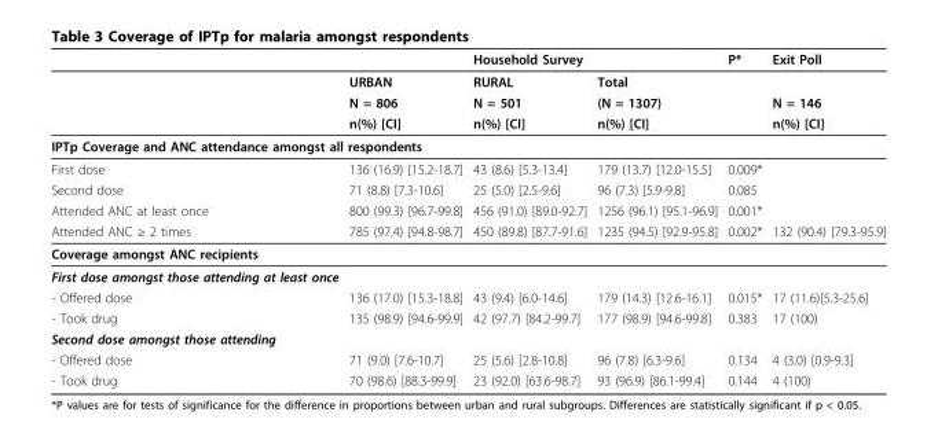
<table><thead><tr><td></td><td></td><td>Household Survey</td><td></td><td>P*</td><td>Exit Poll</td></tr></thead><tbody><tr><td></td><td>URBAN</td><td>RURAL</td><td>Total</td><td></td><td></td></tr><tr><td></td><td>N = 806</td><td>N = 501</td><td>(N = 1307)</td><td></td><td>N = 146</td></tr><tr><td></td><td>n(%) [CI]</td><td>n(%) [CI]</td><td>n(%) [CI]</td><td></td><td>n(%) [CI]</td></tr><tr><td colspan="6">IPTp Coverage and ANC attendance amongst all respondents</td></tr><tr><td>First dose</td><td>136 (16.9) [15.2-18.7]</td><td>43 (8.6) [5.3-13.4]</td><td>179 (13.7) [12.0-15.5]</td><td>0.009*</td><td></td></tr><tr><td>Second dose</td><td>71 (8.8) [7.3-10.6]</td><td>25 (5.0) [2.5-9.6]</td><td>96 (7.3) [5.9-9.8]</td><td>0.085</td><td></td></tr><tr><td>Attended ANC at least once</td><td>800 (99.3) [96.7-99.8]</td><td>456 (91.0) [89.0-92.7]</td><td>1256 (96.1) [95.1-96.9]</td><td>0.001*</td><td></td></tr><tr><td>Attended ANC ≥ 2 times</td><td>785 (97.4) [94.8-98.7]</td><td>450 (89.8) [87.7-91.6]</td><td>1235 (94.5) [92.9-95.8]</td><td>0.002*</td><td>132 (90.4) [79.3-95.9]</td></tr><tr><td colspan="6">Coverage amongst ANC recipients</td></tr><tr><td colspan="6">First dose amongst those attending at least once</td></tr><tr><td>- Offered dose</td><td>136 (17.0) [15.3-18.8]</td><td>43 (9.4) [6.0-14.6]</td><td>179 (14.3) [12.6-16.1]</td><td>0.015*</td><td>17 (11.6)[5.3-25.6]</td></tr><tr><td>- Took drug</td><td>135 (98.9) [94.6-99.9]</td><td>42 (97.7) [84.2-99.7]</td><td>177 (98.9) [94.6-99.8]</td><td>0.383</td><td>17 (100)</td></tr><tr><td colspan="6">Second dose amongst those attending</td></tr><tr><td>- Offered dose</td><td>71 (9.0) [7.6-10.7]</td><td>25 (5.6) [2.8-10.8]</td><td>96 (7.8) [6.3-9.6]</td><td>0.134</td><td>4 (3.0) [0.9-9.3]</td></tr><tr><td>- Took drug</td><td>70 (98.6) [88.3-99.9]</td><td>23 (92.0) [63.6-98.7]</td><td>93 (96.9) [86.1-99.4]</td><td>0.144</td><td>4 (100)</td></tr></tbody></table>